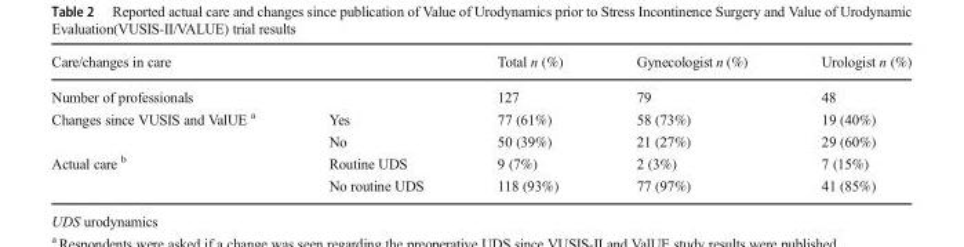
<table><thead><tr><td colspan="2">Care/changes in care</td><td rowspan="2">Total n (%) 127</td><td rowspan="2">Gynecologist n (%) 79</td><td rowspan="2">Urologist n (%) 48</td></tr><tr><td>Number of professionals</td><td></td></tr></thead><tbody><tr><td rowspan="2">Changes since VUSIS and ValUE <sup>a</sup></td><td>Yes</td><td>77 (61%)</td><td>58 (73%)</td><td>19 (40%)</td></tr><tr><td>No</td><td>50 (39%)</td><td>21 (27%)</td><td>29 (60%)</td></tr><tr><td rowspan="2">Actual care <sup>b</sup></td><td>Routine UDS</td><td>9 (7%)</td><td>2 (3%)</td><td>7 (15%)</td></tr><tr><td>No routine UDS</td><td>118 (93%)</td><td>77 (97%)</td><td>41 (85%)</td></tr></tbody></table>